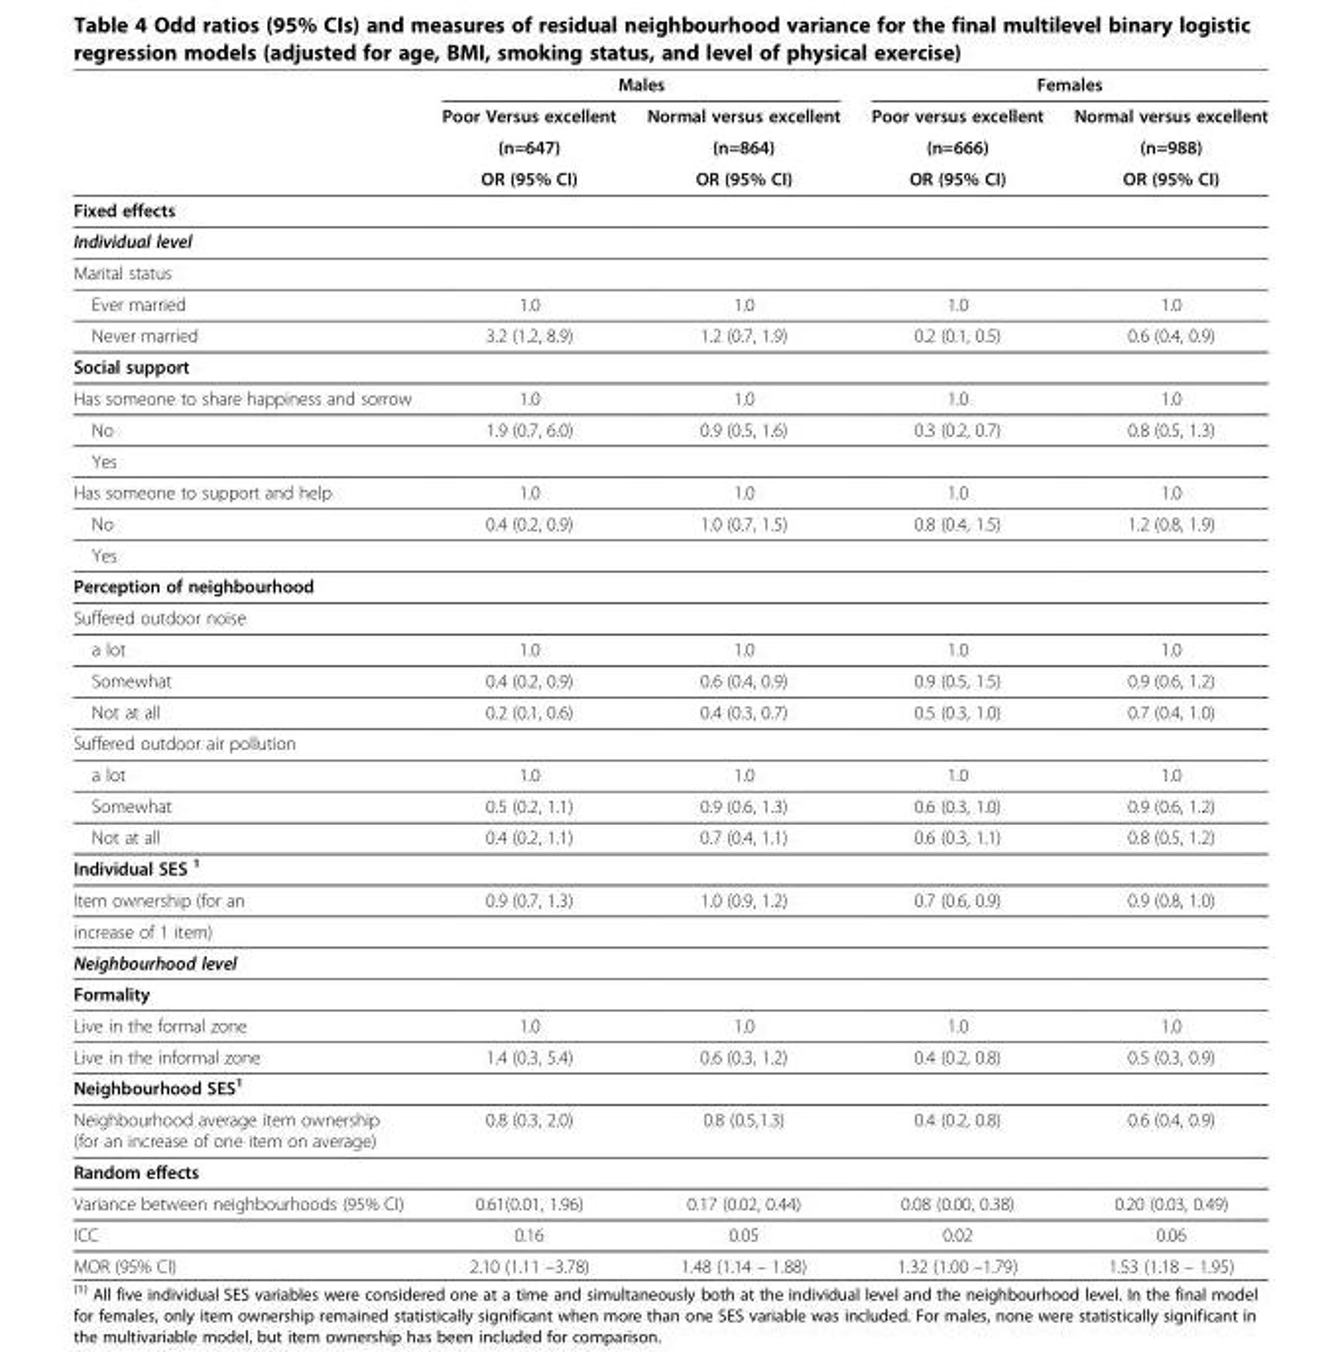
<table><thead><tr><td rowspan="4"></td><td colspan="2">Males</td><td colspan="2">Females</td></tr><tr><td rowspan="3">Poor Versus excellent (n=647) OR (95% CI)</td><td rowspan="3">Normal versus excellent (n=864) OR (95% CI)</td><td rowspan="3">Poor versus excellent (n=666) OR (95% CI)</td><td rowspan="3">Normal versus excellent (n=988) OR (95% CI)</td></tr><tr></tr><tr></tr></thead><tbody><tr><td colspan="5">Fixed effects</td></tr><tr><td colspan="5">Individual level</td></tr><tr><td colspan="5">Marital status</td></tr><tr><td>Ever married</td><td>1.0</td><td>1.0</td><td>1.0</td><td>1.0</td></tr><tr><td>Never married</td><td>3.2 (1.2, 8.9)</td><td>1.2 (0.7, 1.9)</td><td>0.2 (0.1, 0.5)</td><td>0.6 (0.4, 0.9)</td></tr><tr><td colspan="5">Social support</td></tr><tr><td>Has someone to share happiness and sorrow</td><td>1.0</td><td>1.0</td><td>1.0</td><td>1.0</td></tr><tr><td>No</td><td>1.9 (0.7, 6.0)</td><td>0.9 (0.5, 1.6)</td><td>0.3 (0.2, 0.7)</td><td>0.8 (0.5, 1.3)</td></tr><tr><td colspan="5">Yes</td></tr><tr><td>Has someone to support and help</td><td>1.0</td><td>1.0</td><td>1.0</td><td>1.0</td></tr><tr><td>No</td><td>0.4 (0.2, 0.9)</td><td>1.0 (0.7, 1.5)</td><td>0.8 (0.4, 1.5)</td><td>1.2 (0.8, 1.9)</td></tr><tr><td colspan="5">Yes</td></tr><tr><td colspan="5">Perception of neighbourhood</td></tr><tr><td colspan="5">Suffered outdoor noise</td></tr><tr><td>a lot</td><td>1.0</td><td>1.0</td><td>1.0</td><td>1.0</td></tr><tr><td>Somewhat</td><td>0.4 (0.2, 0.9)</td><td>0.6 (0.4, 0.9)</td><td>0.9 (0.5, 1.5)</td><td>0.9 (0.6, 1.2)</td></tr><tr><td>Not at all</td><td>0.2 (0.1, 0.6)</td><td>0.4 (0.3, 0.7)</td><td>0.5 (0.3, 1.0)</td><td>0.7 (0.4, 1.0)</td></tr><tr><td colspan="5">Suffered outdoor air pollution</td></tr><tr><td>a lot</td><td>1.0</td><td>1.0</td><td>1.0</td><td>1.0</td></tr><tr><td>Somewhat</td><td>0.5 (0.2, 1.1)</td><td>0.9 (0.6, 1.3)</td><td>0.6 (0.3, 1.0)</td><td>0.9 (0.6, 1.2)</td></tr><tr><td>Not at all</td><td>0.4 (0.2, 1.1)</td><td>0.7 (0.4, 1.1)</td><td>0.6 (0.3, 1.1)</td><td>0.8 (0.5, 1.2)</td></tr><tr><td colspan="5">Individual SES <sup>1</sup></td></tr><tr><td>Item ownership (for an</td><td>0.9 (0.7, 1.3)</td><td>1.0 (0.9, 1.2)</td><td>0.7 (0.6, 0.9)</td><td>0.9 (0.8, 1.0)</td></tr><tr><td colspan="5">increase of 1 item)</td></tr><tr><td colspan="5">Neighbourhood level</td></tr><tr><td colspan="5">Formality</td></tr><tr><td>Live in the formal zone</td><td>1.0</td><td>1.0</td><td>1.0</td><td>1.0</td></tr><tr><td>Live in the informal zone</td><td>1.4 (0.3, 5.4)</td><td>0.6 (0.3, 1.2)</td><td>0.4 (0.2, 0.8)</td><td>0.5 (0.3, 0.9)</td></tr><tr><td colspan="5">Neighbourhood SES<sup>1</sup></td></tr><tr><td>Neighbourhood average item ownership (for an increase of one item on average)</td><td>0.8 (0.3, 2.0)</td><td>0.8 (0.5,1.3)</td><td>0.4 (0.2, 0.8)</td><td>0.6 (0.4, 0.9)</td></tr><tr><td colspan="5">Random effects</td></tr><tr><td>Variance between neighbourhoods (95% CI)</td><td>0.61(0.01, 1.96)</td><td>0.17 (0.02, 0.44)</td><td>0.08 (0.00, 0.38)</td><td>0.20 (0.03, 0.49)</td></tr><tr><td>ICC</td><td>0.16</td><td>0.05</td><td>0.02</td><td>0.06</td></tr><tr><td>MOR (95% CI)</td><td>2.10 (1.11 –3.78)</td><td>1.48 (1.14 – 1.88)</td><td>1.32 (1.00 –1.79)</td><td>1.53 (1.18 – 1.95)</td></tr></tbody></table>